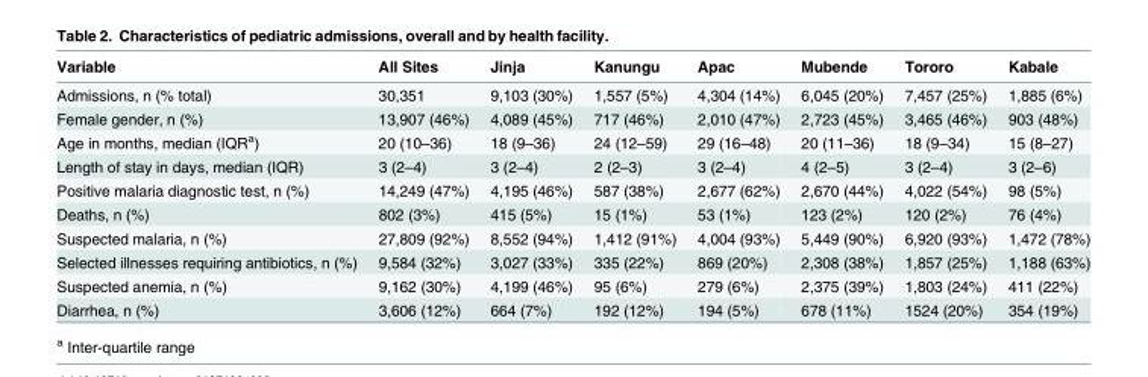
<table><thead><tr><td>Variable</td><td>All Sites</td><td>Jinja</td><td>Kanungu</td><td>Apac</td><td>Mubende</td><td>Tororo</td><td>Kabale</td></tr></thead><tbody><tr><td>Admissions, n (% total)</td><td>30,351</td><td>9,103 (30%)</td><td>1,557 (5%)</td><td>4,304 (14%)</td><td>6,045 (20%)</td><td>7,457 (25%)</td><td>1,885 (6%)</td></tr><tr><td>Female gender, n (%)</td><td>13,907 (46%)</td><td>4,089 (45%)</td><td>717 (46%)</td><td>2,010 (47%)</td><td>2,723 (45%)</td><td>3,465 (46%)</td><td>903 (48%)</td></tr><tr><td>Age in months, median (IQR<sup>a</sup>)</td><td>20 (10–36)</td><td>18 (9–36)</td><td>24 (12–59)</td><td>29 (16–48)</td><td>20 (11–36)</td><td>18 (9–34)</td><td>15 (8–27)</td></tr><tr><td>Length of stay in days, median (IQR)</td><td>3 (2–4)</td><td>3 (2–4)</td><td>2 (2–3)</td><td>3 (2–4)</td><td>4 (2–5)</td><td>3 (2–4)</td><td>3 (2–6)</td></tr><tr><td>Positive malaria diagnostic test, n (%)</td><td>14,249 (47%)</td><td>4,195 (46%)</td><td>587 (38%)</td><td>2,677 (62%)</td><td>2,670 (44%)</td><td>4,022 (54%)</td><td>98 (5%)</td></tr><tr><td>Deaths, n (%)</td><td>802 (3%)</td><td>415 (5%)</td><td>15 (1%)</td><td>53 (1%)</td><td>123 (2%)</td><td>120 (2%)</td><td>76 (4%)</td></tr><tr><td>Suspected malaria, n (%)</td><td>27,809 (92%)</td><td>8,552 (94%)</td><td>1,412 (91%)</td><td>4,004 (93%)</td><td>5,449 (90%)</td><td>6,920 (93%)</td><td>1,472 (78%)</td></tr><tr><td>Selected illnesses requiring antibiotics, n (%)</td><td>9,584 (32%)</td><td>3,027 (33%)</td><td>335 (22%)</td><td>869 (20%)</td><td>2,308 (38%)</td><td>1,857 (25%)</td><td>1,188 (63%)</td></tr><tr><td>Suspected anemia, n (%)</td><td>9,162 (30%)</td><td>4,199 (46%)</td><td>95 (6%)</td><td>279 (6%)</td><td>2,375 (39%)</td><td>1,803 (24%)</td><td>411 (22%)</td></tr><tr><td>Diarrhea, n (%)</td><td>3,606 (12%)</td><td>664 (7%)</td><td>192 (12%)</td><td>194 (5%)</td><td>678 (11%)</td><td>1524 (20%)</td><td>354 (19%)</td></tr></tbody></table>